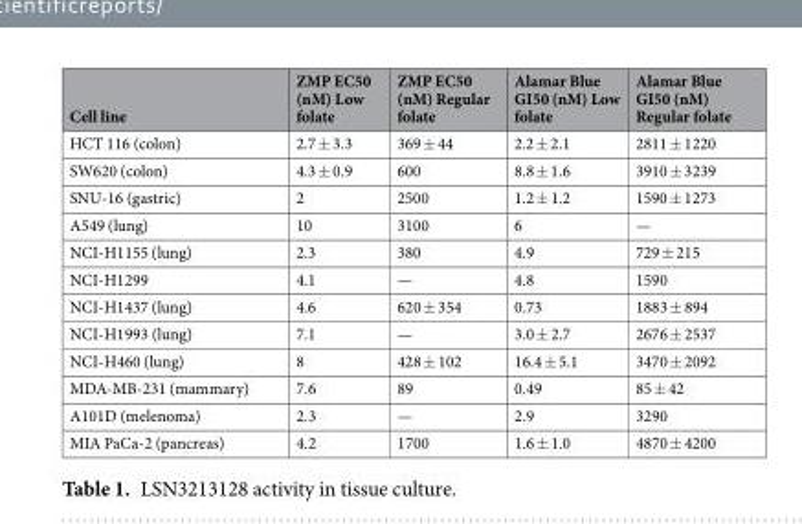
<table><thead><tr><td>Cell line</td><td>ZMP EC50 (nM) Low folate</td><td>ZMP EC50 (nM) Regular folate</td><td>Alamar Blue GI50 (nM) Low folate</td><td>Alamar Blue GI50 (nM) Regular folate</td></tr></thead><tbody><tr><td>HCT 116 (colon)</td><td>2.7 ± 3.3</td><td>369 ± 44</td><td>2.2 ± 2.1</td><td>2811 ± 1220</td></tr><tr><td>SW620 (colon)</td><td>4.3 ± 0.9</td><td>600</td><td>8.8 ± 1.6</td><td>3910 ± 3239</td></tr><tr><td>SNU-16 (gastric)</td><td>2</td><td>2500</td><td>1.2 ± 1.2</td><td>1590 ± 1273</td></tr><tr><td>A549 (lung)</td><td>10</td><td>3100</td><td>6</td><td>—</td></tr><tr><td>NCI-H1155 (lung)</td><td>2.3</td><td>380</td><td>4.9</td><td>729 ± 215</td></tr><tr><td>NCI-H1299</td><td>4.1</td><td>—</td><td>4.8</td><td>1590</td></tr><tr><td>NCI-H1437 (lung)</td><td>4.6</td><td>620 ± 354</td><td>0.73</td><td>1883 ± 894</td></tr><tr><td>NCI-H1993 (lung)</td><td>7.1</td><td>—</td><td>3.0 ± 2.7</td><td>2676 ± 2537</td></tr><tr><td>NCI-H460 (lung)</td><td>8</td><td>428 ± 102</td><td>16.4 ± 5.1</td><td>3470 ± 2092</td></tr><tr><td>MDA-MB-231 (mammary)</td><td>7.6</td><td>89</td><td>0.49</td><td>85 ± 42</td></tr><tr><td>A101D (melenoma)</td><td>2.3</td><td>—</td><td>2.9</td><td>3290</td></tr><tr><td>MIA PaCa-2 (pancreas)</td><td>4.2</td><td>1700</td><td>1.6 ± 1.0</td><td>4870 ± 4200</td></tr></tbody></table>